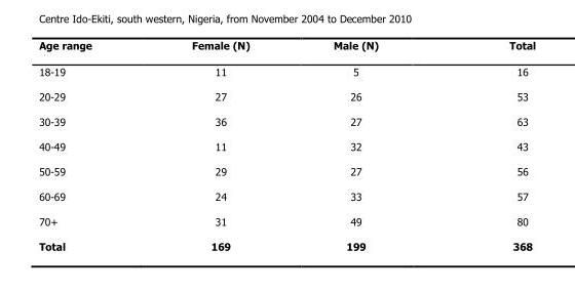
<table><thead><tr><td>Age range</td><td>Female (N)</td><td>Male (N)</td><td>Total</td></tr></thead><tbody><tr><td>18-19</td><td>11</td><td>5</td><td>16</td></tr><tr><td>20-29</td><td>27</td><td>26</td><td>53</td></tr><tr><td>30-39</td><td>36</td><td>27</td><td>63</td></tr><tr><td>40-49</td><td>11</td><td>32</td><td>43</td></tr><tr><td>50-59</td><td>29</td><td>27</td><td>56</td></tr><tr><td>60-69</td><td>24</td><td>33</td><td>57</td></tr><tr><td>70+</td><td>31</td><td>49</td><td>80</td></tr><tr><td>Total</td><td>169</td><td>199</td><td>368</td></tr></tbody></table>